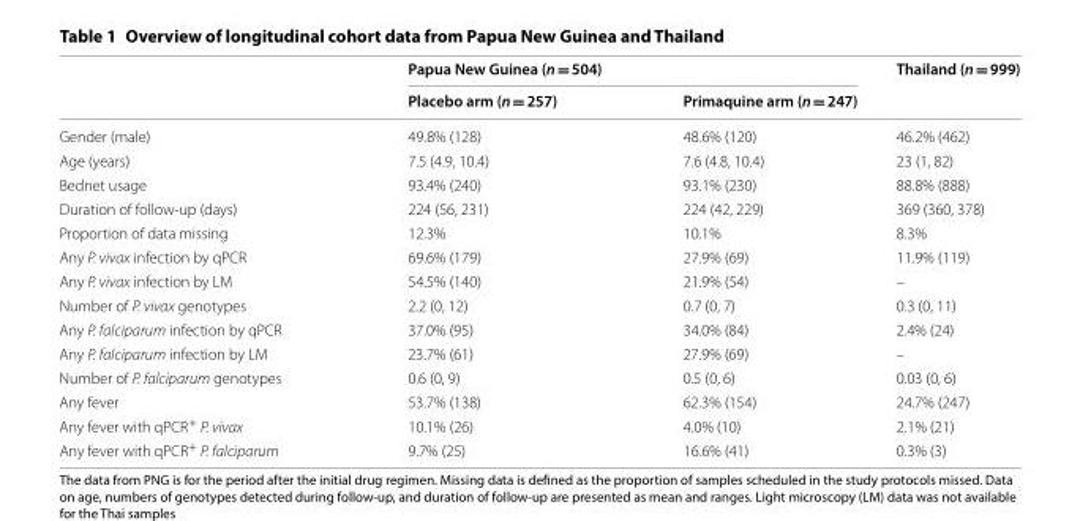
<table><thead><tr><td rowspan="2"></td><td colspan="2">Papua New Guinea (n = 504)</td><td rowspan="2">Thailand (n = 999)</td></tr><tr><td>Placebo arm (n = 257)</td><td>Primaquine arm (n = 247)</td></tr></thead><tbody><tr><td>Gender (male)</td><td>49.8% (128)</td><td>48.6% (120)</td><td>46.2% (462)</td></tr><tr><td>Age (years)</td><td>7.5 (4.9, 10.4)</td><td>7.6 (4.8, 10.4)</td><td>23 (1, 82)</td></tr><tr><td>Bednet usage</td><td>93.4% (240)</td><td>93.1% (230)</td><td>88.8% (888)</td></tr><tr><td>Duration of follow-up (days)</td><td>224 (56, 231)</td><td>224 (42, 229)</td><td>369 (360, 378)</td></tr><tr><td>Proportion of data missing</td><td>12.3%</td><td>10.1%</td><td>8.3%</td></tr><tr><td>Any P. vivax infection by qPCR</td><td>69.6% (179)</td><td>27.9% (69)</td><td>11.9% (119)</td></tr><tr><td>Any P. vivax infection by LM</td><td>54.5% (140)</td><td>21.9% (54)</td><td>–</td></tr><tr><td>Number of P. vivax genotypes</td><td>2.2 (0, 12)</td><td>0.7 (0, 7)</td><td>0.3 (0, 11)</td></tr><tr><td>Any P. falciparum infection by qPCR</td><td>37.0% (95)</td><td>34.0% (84)</td><td>2.4% (24)</td></tr><tr><td>Any P. falciparum infection by LM</td><td>23.7% (61)</td><td>27.9% (69)</td><td>–</td></tr><tr><td>Number of P. falciparum genotypes</td><td>0.6 (0, 9)</td><td>0.5 (0, 6)</td><td>0.03 (0, 6)</td></tr><tr><td>Any fever</td><td>53.7% (138)</td><td>62.3% (154)</td><td>24.7% (247)</td></tr><tr><td>Any fever with qPCR<sup>+</sup> P. vivax</td><td>10.1% (26)</td><td>4.0% (10)</td><td>2.1% (21)</td></tr><tr><td>Any fever with qPCR<sup>+</sup> P. falciparum</td><td>9.7% (25)</td><td>16.6% (41)</td><td>0.3% (3)</td></tr></tbody></table>